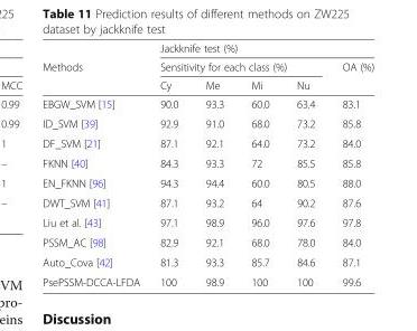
<table><thead><tr><td rowspan="3">Methods</td><td colspan="5">Jackknife test (%)</td></tr><tr><td colspan="4">Sensitivity for each class (%)</td><td rowspan="2">OA (%)</td></tr><tr><td>Cy</td><td>Me</td><td>Mi</td><td>Nu</td></tr></thead><tbody><tr><td>EBGW_SVM [15]</td><td>90.0</td><td>93.3</td><td>60.0</td><td>63.4</td><td>83.1</td></tr><tr><td>ID_SVM [39]</td><td>92.9</td><td>91.0</td><td>68.0</td><td>73.2</td><td>85.8</td></tr><tr><td>DF_SVM [21]</td><td>87.1</td><td>92.1</td><td>64.0</td><td>73.2</td><td>84.0</td></tr><tr><td>FKNN [40]</td><td>84.3</td><td>93.3</td><td>72</td><td>85.5</td><td>85.8</td></tr><tr><td>EN_FKNN [96]</td><td>94.3</td><td>94.4</td><td>60.0</td><td>80.5</td><td>88.0</td></tr><tr><td>DWT_SVM [41]</td><td>87.1</td><td>93.2</td><td>64</td><td>90.2</td><td>87.6</td></tr><tr><td>Liu et al. [43]</td><td>97.1</td><td>98.9</td><td>96.0</td><td>97.6</td><td>97.8</td></tr><tr><td>PSSM_AC [98]</td><td>82.9</td><td>92.1</td><td>68.0</td><td>78.0</td><td>84.0</td></tr><tr><td>Auto_Cova [42]</td><td>81.3</td><td>93.3</td><td>85.7</td><td>84.6</td><td>87.1</td></tr><tr><td>PsePSSM-DCCA-LFDA</td><td>100</td><td>98.9</td><td>100</td><td>100</td><td>99.6</td></tr></tbody></table>